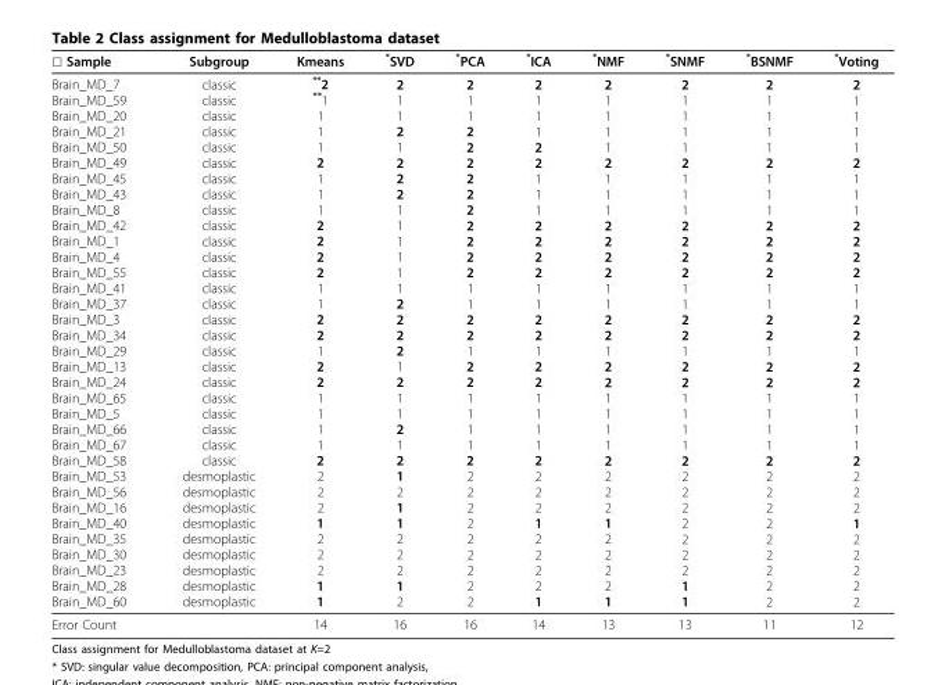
<table><thead><tr><td>☐ Sample</td><td>Subgroup</td><td>Kmeans</td><td>*SVD</td><td>*PCA</td><td>*ICA</td><td>*NMF</td><td>*SNMF</td><td>*BSNMF</td><td>*Voting</td></tr></thead><tbody><tr><td>Brain_MD_7 Brain_MD_59 Brain_MD_20 Brain_MD_21 Brain_MD_50 Brain_MD_49 Brain_MD_45 Brain_MD_43 Brain_MD_8 Brain_MD_42 Brain_MD_1 Brain_MD_4 Brain_MD_55 Brain_MD_41 Brain_MD_37 Brain_MD_3 Brain_MD_34 Brain_MD_29 Brain_MD_13 Brain_MD_24 Brain_MD_65 Brain_MD_5 Brain_MD_66 Brain_MD_67 Brain_MD_58 Brain_MD_53 Brain_MD_56 Brain_MD_16 Brain_MD_40 Brain_MD_35 Brain_MD_30 Brain_MD_23 Brain_MD_28 Brain_MD_60</td><td>classic classic classic classic classic classic classic classic classic classic classic classic classic classic classic classic classic classic classic classic classic classic classic classic classic desmoplastic desmoplastic desmoplastic desmoplastic desmoplastic desmoplastic desmoplastic desmoplastic desmoplastic</td><td>**2 **1 1 1 1 2 1 1 1 2 2 2 2 1 1 2 2 1 2 2 1 1 1 1 2 2 2 2 1 2 2 2 1 1</td><td>2 1 1 2 1 2 2 2 1 1 1 1 1 1 2 2 2 2 1 2 1 1 2 1 2 1 2 1 1 2 2 2 1 2</td><td>2 1 1 2 2 2 2 2 2 2 2 2 2 1 1 2 2 1 2 2 1 1 1 1 2 2 2 2 2 2 2 2 2 2</td><td>2 1 1 1 2 2 1 1 1 2 2 2 2 1 1 2 2 1 2 2 1 1 1 1 2 2 2 2 1 2 2 2 2 1</td><td>2 1 1 1 1 2 1 1 1 2 2 2 2 1 1 2 2 1 2 2 1 1 1 1 2 2 2 2 1 2 2 2 2 1</td><td>2 1 1 1 1 2 1 1 1 2 2 2 2 1 1 2 2 1 2 2 1 1 1 1 2 2 2 2 2 2 2 2 1 1</td><td>2 1 1 1 1 2 1 1 1 2 2 2 2 1 1 2 2 1 2 2 1 1 1 1 2 2 2 2 2 2 2 2 2 2</td><td>2 1 1 1 1 2 1 1 1 2 2 2 2 1 1 2 2 1 2 2 1 1 1 1 2 2 2 2 1 2 2 2 2 2</td></tr><tr><td>Error Count</td><td></td><td>14</td><td>16</td><td>16</td><td>14</td><td>13</td><td>13</td><td>11</td><td>12</td></tr></tbody></table>